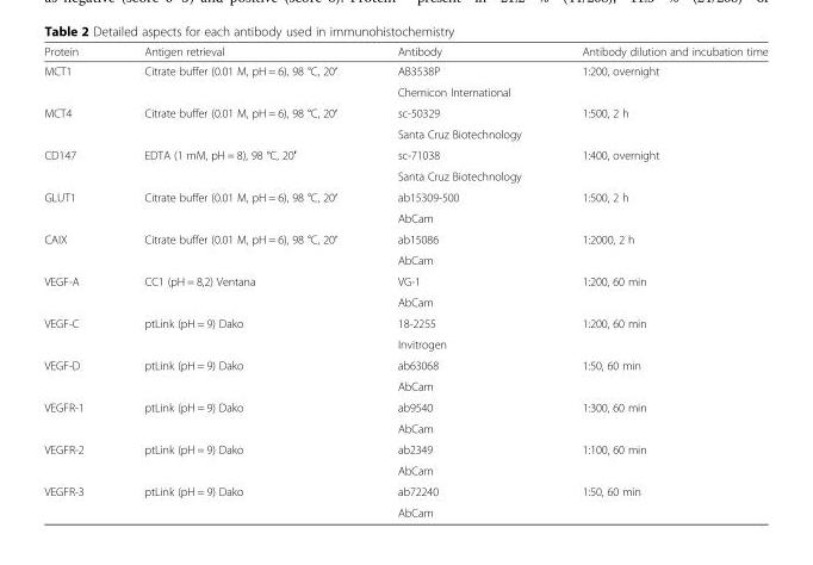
<table><thead><tr><td>Protein</td><td>Antigen retrieval</td><td>Antibody</td><td>Antibody dilution and incubation time</td></tr></thead><tbody><tr><td rowspan="2">MCT1</td><td rowspan="2">Citrate buffer (0.01 M, pH = 6), 98 °C, 20′</td><td>AB3538P</td><td rowspan="2">1:200, overnight</td></tr><tr><td>Chemicon International</td></tr><tr><td rowspan="2">MCT4</td><td rowspan="2">Citrate buffer (0.01 M, pH = 6), 98 °C, 20′</td><td>sc-50329</td><td rowspan="2">1:500, 2 h</td></tr><tr><td>Santa Cruz Biotechnology</td></tr><tr><td rowspan="2">CD147</td><td rowspan="2">EDTA (1 mM, pH = 8), 98 °C, 20′</td><td>sc-71038</td><td rowspan="2">1:400, overnight</td></tr><tr><td>Santa Cruz Biotechnology</td></tr><tr><td rowspan="2">GLUT1</td><td rowspan="2">Citrate buffer (0.01 M, pH = 6), 98 °C, 20′</td><td>ab15309-500</td><td rowspan="2">1:500, 2 h</td></tr><tr><td>AbCam</td></tr><tr><td rowspan="2">CAIX</td><td rowspan="2">Citrate buffer (0.01 M, pH = 6), 98 °C, 20′</td><td>ab15086</td><td rowspan="2">1:2000, 2 h</td></tr><tr><td>AbCam</td></tr><tr><td rowspan="2">VEGF-A</td><td rowspan="2">CC1 (pH = 8,2) Ventana</td><td>VG-1</td><td rowspan="2">1:200, 60 min</td></tr><tr><td>AbCam</td></tr><tr><td rowspan="2">VEGF-C</td><td rowspan="2">ptLink (pH = 9) Dako</td><td>18-2255</td><td rowspan="2">1:200, 60 min</td></tr><tr><td>Invitrogen</td></tr><tr><td rowspan="2">VEGF-D</td><td rowspan="2">ptLink (pH = 9) Dako</td><td>ab63068</td><td rowspan="2">1:50, 60 min</td></tr><tr><td>AbCam</td></tr><tr><td rowspan="2">VEGFR-1</td><td rowspan="2">ptLink (pH = 9) Dako</td><td>ab9540</td><td rowspan="2">1:300, 60 min</td></tr><tr><td>AbCam</td></tr><tr><td rowspan="2">VEGFR-2</td><td rowspan="2">ptLink (pH = 9) Dako</td><td>ab2349</td><td rowspan="2">1:100, 60 min</td></tr><tr><td>AbCam</td></tr><tr><td rowspan="2">VEGFR-3</td><td rowspan="2">ptLink (pH = 9) Dako</td><td>ab72240</td><td rowspan="2">1:50, 60 min</td></tr><tr><td>AbCam</td></tr></tbody></table>